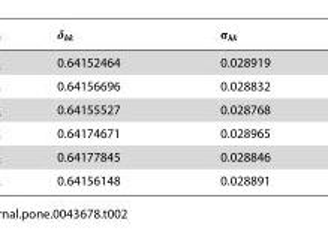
<table><tbody><tr><td>0.64152464</td><td>0.028919</td></tr><tr><td>0.64156696</td><td>0.028832</td></tr><tr><td>0.64155527</td><td>0.028768</td></tr><tr><td>0.64174671</td><td>0.028965</td></tr><tr><td>0.64177845</td><td>0.028846</td></tr><tr><td>0.64156148</td><td>0.028891</td></tr></tbody></table>